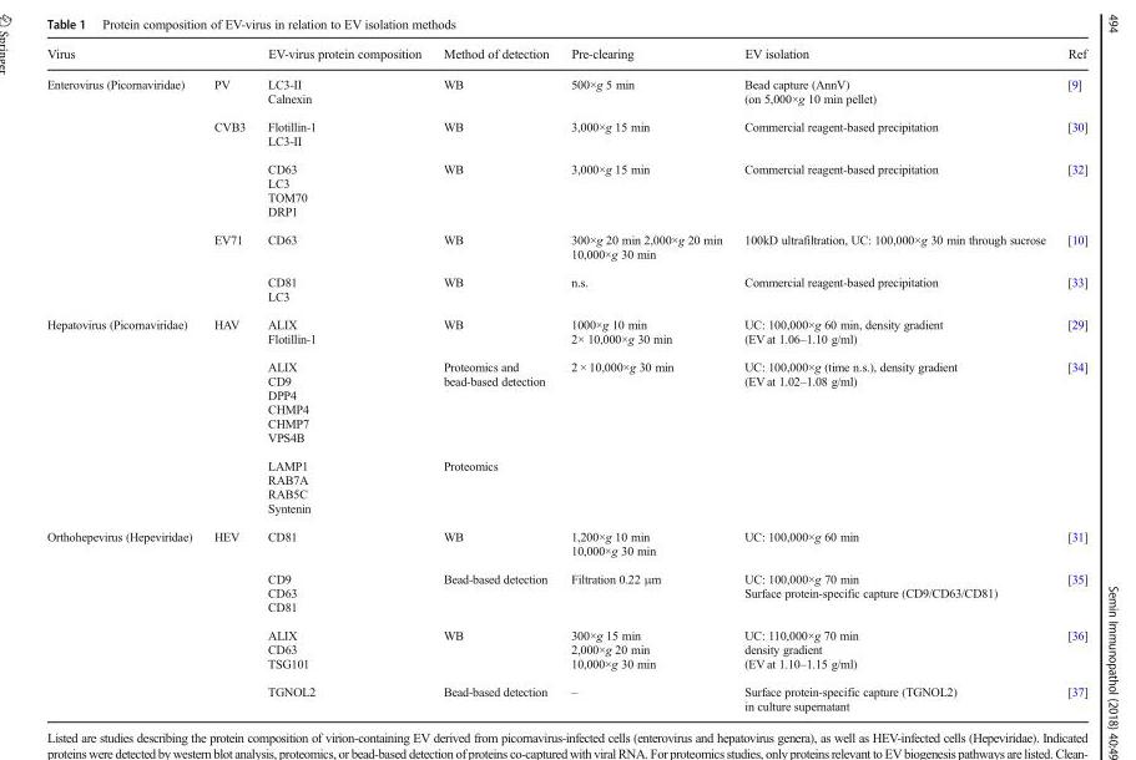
<table><thead><tr><td>Virus</td><td></td><td>EV-virus protein composition</td><td>Method of detection</td><td>Pre-clearing</td><td>EV isolation</td><td>Ref</td></tr></thead><tbody><tr><td rowspan="5">Enterovirus (Picornaviridae)</td><td>PV</td><td>LC3-II Calnexin</td><td>WB</td><td>500×g 5 min</td><td>Bead capture (AnnV) (on 5,000×g 10 min pellet)</td><td>[9]</td></tr><tr><td rowspan="2">CVB3</td><td>Flotillin-1 LC3-II</td><td>WB</td><td>3,000×g 15 min</td><td>Commercial reagent-based precipitation</td><td>[30]</td></tr><tr><td>CD63 LC3 TOM70 DRP1</td><td>WB</td><td>3,000×g 15 min</td><td>Commercial reagent-based precipitation</td><td>[32]</td></tr><tr><td rowspan="2">EV71</td><td>CD63</td><td>WB</td><td>300×g 20 min 2,000×g 20 min 10,000×g 30 min</td><td>100kD ultrafiltration, UC: 100,000×g 30 min through sucrose</td><td>[10]</td></tr><tr><td>CD81 LC3</td><td>WB</td><td>n.s.</td><td>Commercial reagent-based precipitation</td><td>[33]</td></tr><tr><td rowspan="3">Hepatovirus (Picornaviridae)</td><td rowspan="3">HAV</td><td>ALIX Flotillin-1</td><td>WB</td><td>1000×g 10 min 2× 10,000×g 30 min</td><td>UC: 100,000×g 60 min, density gradient (EV at 1.06–1.10 g/ml)</td><td>[29]</td></tr><tr><td>ALIX CD9 DPP4 CHMP4 CHMP7 VPS4B</td><td>Proteomics and bead-based detection</td><td>2 × 10,000×g 30 min</td><td rowspan="2">UC: 100,000×g (time n.s.), density gradient (EV at 1.02–1.08 g/ml)</td><td rowspan="2">[34]</td></tr><tr><td>LAMP1 RAB7A RAB5C Syntenin</td><td>Proteomics</td><td></td></tr><tr><td rowspan="4">Orthohepevirus (Hepeviridae)</td><td rowspan="4">HEV</td><td>CD81</td><td>WB</td><td>1,200×g 10 min 10,000×g 30 min</td><td>UC: 100,000×g 60 min</td><td>[31]</td></tr><tr><td>CD9 CD63 CD81</td><td>Bead-based detection</td><td>Filtration 0.22 μm</td><td>UC: 100,000×g 70 min Surface protein-specific capture (CD9/CD63/CD81)</td><td>[35]</td></tr><tr><td>ALIX CD63 TSG101</td><td>WB</td><td>300×g 15 min 2,000×g 20 min 10,000×g 30 min</td><td>UC: 110,000×g 70 min density gradient (EV at 1.10–1.15 g/ml)</td><td>[36]</td></tr><tr><td>TGNOL2</td><td>Bead-based detection</td><td>–</td><td>Surface protein-specific capture (TGNOL2) in culture supernatant</td><td>[37]</td></tr></tbody></table>